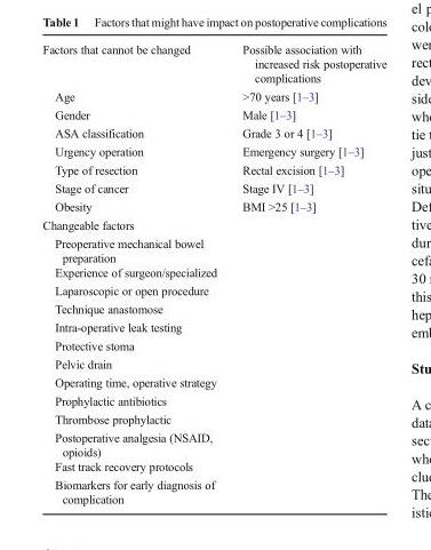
<table><tbody><tr><td>Factors that cannot be changed</td><td>Possible association with increased risk postoperative complications</td></tr><tr><td>Age</td><td>&gt;70 years [1–3]</td></tr><tr><td>Gender</td><td>Male [1–3]</td></tr><tr><td>ASA classification</td><td>Grade 3 or 4 [1–3]</td></tr><tr><td>Urgency operation</td><td>Emergency surgery [1–3]</td></tr><tr><td>Type of resection</td><td>Rectal excision [1–3]</td></tr><tr><td>Stage of cancer</td><td>Stage IV [1–3]</td></tr><tr><td>Obesity</td><td>BMI &gt;25 [1–3]</td></tr><tr><td colspan="2">Changeable factors</td></tr><tr><td colspan="2">Preoperative mechanical bowel preparation</td></tr><tr><td colspan="2">Experience of surgeon/specialized</td></tr><tr><td colspan="2">Laparoscopic or open procedure</td></tr><tr><td colspan="2">Technique anastomose</td></tr><tr><td colspan="2">Intra-operative leak testing</td></tr><tr><td colspan="2">Protective stoma</td></tr><tr><td colspan="2">Pelvic drain</td></tr><tr><td colspan="2">Operating time, operative strategy</td></tr><tr><td colspan="2">Prophylactic antibiotics</td></tr><tr><td colspan="2">Thrombose prophylactic</td></tr><tr><td colspan="2">Postoperative analgesia (NSAID, opioids)</td></tr><tr><td colspan="2">Fast track recovery protocols</td></tr><tr><td>Biomarkers for early diagnosis of complication</td><td></td></tr></tbody></table>